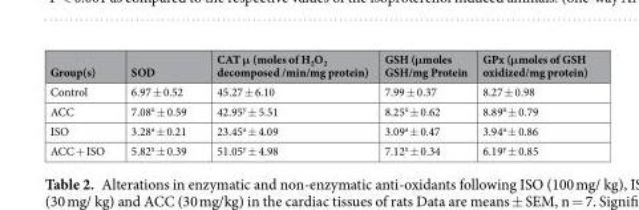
<table><thead><tr><td>Group(s)</td><td>SOD</td><td>CAT μ (moles of H<sub>2</sub>O<sub>2</sub> decomposed /min/mg protein)</td><td>GSH (μmoles GSH/mg Protein</td><td>GPx (μmoles of GSH oxidized/mg protein)</td></tr></thead><tbody><tr><td>Control</td><td>6.97 ± 0.52</td><td>45.27 ± 6.10</td><td>7.99 ± 0.37</td><td>8.27 ± 0.98</td></tr><tr><td>ACC</td><td>7.08<sup>x</sup> ± 0.59</td><td>42.95<sup>y</sup> ± 5.51</td><td>8.25<sup>x</sup> ± 0.62</td><td>8.89<sup>x</sup> ± 0.79</td></tr><tr><td>ISO</td><td>3.28<sup>a</sup> ± 0.21</td><td>23.45<sup>a</sup> ± 4.09</td><td>3.09<sup>a</sup> ± 0.47</td><td>3.94<sup>a</sup> ± 0.86</td></tr><tr><td>ACC + ISO</td><td>5.82<sup>x</sup> ± 0.39</td><td>51.05<sup>y</sup> ± 4.98</td><td>7.12<sup>x</sup> ± 0.34</td><td>6.19<sup>y</sup> ± 0.85</td></tr></tbody></table>